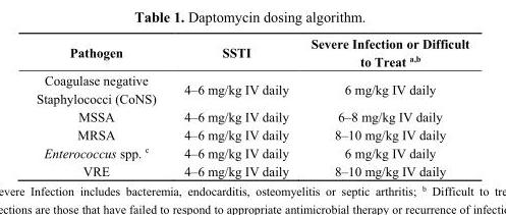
<table><thead><tr><td>Pathogen</td><td>SSTI</td><td>Severe Infection or Difficult to Treat <sup>a,b</sup></td></tr></thead><tbody><tr><td>Coagulase negative Staphylococci (CoNS)</td><td>4–6 mg/kg IV daily</td><td>6 mg/kg IV daily</td></tr><tr><td>MSSA</td><td>4–6 mg/kg IV daily</td><td>6–8 mg/kg IV daily</td></tr><tr><td>MRSA</td><td>4–6 mg/kg IV daily</td><td>8–10 mg/kg IV daily</td></tr><tr><td>Enterococcus spp. <sup>c</sup></td><td>4–6 mg/kg IV daily</td><td>6 mg/kg IV daily</td></tr><tr><td>VRE</td><td>4–6 mg/kg IV daily</td><td>8–10 mg/kg IV daily</td></tr></tbody></table>